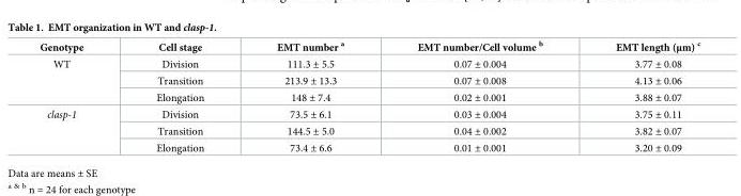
<table><thead><tr><td>Genotype</td><td>Cell stage</td><td>EMT number <sup>a</sup></td><td>EMT number/Cell volume <sup>b</sup></td><td>EMT length (μm) <sup>c</sup></td></tr></thead><tbody><tr><td rowspan="3">WT</td><td>Division</td><td>111.3 ± 5.5</td><td>0.07 ± 0.004</td><td>3.77 ± 0.08</td></tr><tr><td>Transition</td><td>213.9 ± 13.3</td><td>0.07 ± 0.008</td><td>4.13 ± 0.06</td></tr><tr><td>Elongation</td><td>148 ± 7.4</td><td>0.02 ± 0.001</td><td>3.88 ± 0.07</td></tr><tr><td rowspan="3">clasp-1</td><td>Division</td><td>73.5 ± 6.1</td><td>0.03 ± 0.004</td><td>3.75 ± 0.11</td></tr><tr><td>Transition</td><td>144.5 ± 5.0</td><td>0.04 ± 0.002</td><td>3.82 ± 0.07</td></tr><tr><td>Elongation</td><td>73.4 ± 6.6</td><td>0.01 ± 0.001</td><td>3.20 ± 0.09</td></tr></tbody></table>